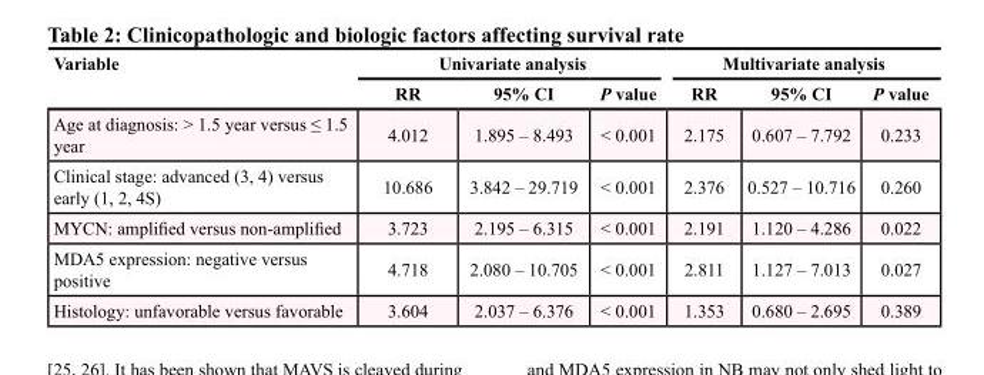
<table><thead><tr><td rowspan="2">Variable</td><td colspan="3">Univariate analysis</td><td colspan="3">Multivariate analysis</td></tr><tr><td>RR</td><td>95% CI</td><td>P value</td><td>RR</td><td>95% CI</td><td>P value</td></tr></thead><tbody><tr><td>Age at diagnosis: &gt; 1.5 year versus ≤ 1.5 year</td><td>4.012</td><td>1.895 – 8.493</td><td>&lt; 0.001</td><td>2.175</td><td>0.607 – 7.792</td><td>0.233</td></tr><tr><td>Clinical stage: advanced (3, 4) versus early (1, 2, 4S)</td><td>10.686</td><td>3.842 – 29.719</td><td>&lt; 0.001</td><td>2.376</td><td>0.527 – 10.716</td><td>0.260</td></tr><tr><td>MYCN: amplified versus non-amplified</td><td>3.723</td><td>2.195 – 6.315</td><td>&lt; 0.001</td><td>2.191</td><td>1.120 – 4.286</td><td>0.022</td></tr><tr><td>MDA5 expression: negative versus positive</td><td>4.718</td><td>2.080 – 10.705</td><td>&lt; 0.001</td><td>2.811</td><td>1.127 – 7.013</td><td>0.027</td></tr><tr><td>Histology: unfavorable versus favorable</td><td>3.604</td><td>2.037 – 6.376</td><td>&lt; 0.001</td><td>1.353</td><td>0.680 – 2.695</td><td>0.389</td></tr></tbody></table>